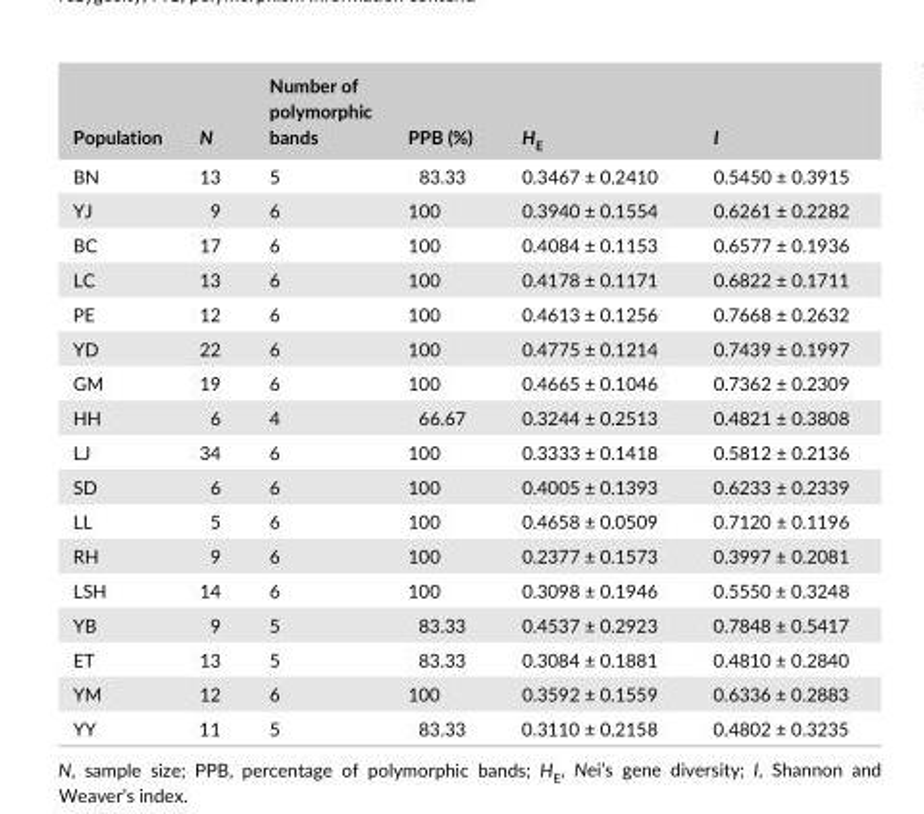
<table><thead><tr><td>Population</td><td>N</td><td>Number of polymorphic bands</td><td>PPB (%)</td><td>H<sub>E</sub></td><td>I</td></tr></thead><tbody><tr><td>BN</td><td>13</td><td>5</td><td>83.33</td><td>0.3467 ± 0.2410</td><td>0.5450 ± 0.3915</td></tr><tr><td>YJ</td><td>9</td><td>6</td><td>100</td><td>0.3940 ± 0.1554</td><td>0.6261 ± 0.2282</td></tr><tr><td>BC</td><td>17</td><td>6</td><td>100</td><td>0.4084 ± 0.1153</td><td>0.6577 ± 0.1936</td></tr><tr><td>LC</td><td>13</td><td>6</td><td>100</td><td>0.4178 ± 0.1171</td><td>0.6822 ± 0.1711</td></tr><tr><td>PE</td><td>12</td><td>6</td><td>100</td><td>0.4613 ± 0.1256</td><td>0.7668 ± 0.2632</td></tr><tr><td>YD</td><td>22</td><td>6</td><td>100</td><td>0.4775 ± 0.1214</td><td>0.7439 ± 0.1997</td></tr><tr><td>GM</td><td>19</td><td>6</td><td>100</td><td>0.4665 ± 0.1046</td><td>0.7362 ± 0.2309</td></tr><tr><td>HH</td><td>6</td><td>4</td><td>66.67</td><td>0.3244 ± 0.2513</td><td>0.4821 ± 0.3808</td></tr><tr><td>LJ</td><td>34</td><td>6</td><td>100</td><td>0.3333 ± 0.1418</td><td>0.5812 ± 0.2136</td></tr><tr><td>SD</td><td>6</td><td>6</td><td>100</td><td>0.4005 ± 0.1393</td><td>0.6233 ± 0.2339</td></tr><tr><td>LL</td><td>5</td><td>6</td><td>100</td><td>0.4658 ± 0.0509</td><td>0.7120 ± 0.1196</td></tr><tr><td>RH</td><td>9</td><td>6</td><td>100</td><td>0.2377 ± 0.1573</td><td>0.3997 ± 0.2081</td></tr><tr><td>LSH</td><td>14</td><td>6</td><td>100</td><td>0.3098 ± 0.1946</td><td>0.5550 ± 0.3248</td></tr><tr><td>YB</td><td>9</td><td>5</td><td>83.33</td><td>0.4537 ± 0.2923</td><td>0.7848 ± 0.5417</td></tr><tr><td>ET</td><td>13</td><td>5</td><td>83.33</td><td>0.3084 ± 0.1881</td><td>0.4810 ± 0.2840</td></tr><tr><td>YM</td><td>12</td><td>6</td><td>100</td><td>0.3592 ± 0.1559</td><td>0.6336 ± 0.2883</td></tr><tr><td>YY</td><td>11</td><td>5</td><td>83.33</td><td>0.3110 ± 0.2158</td><td>0.4802 ± 0.3235</td></tr></tbody></table>